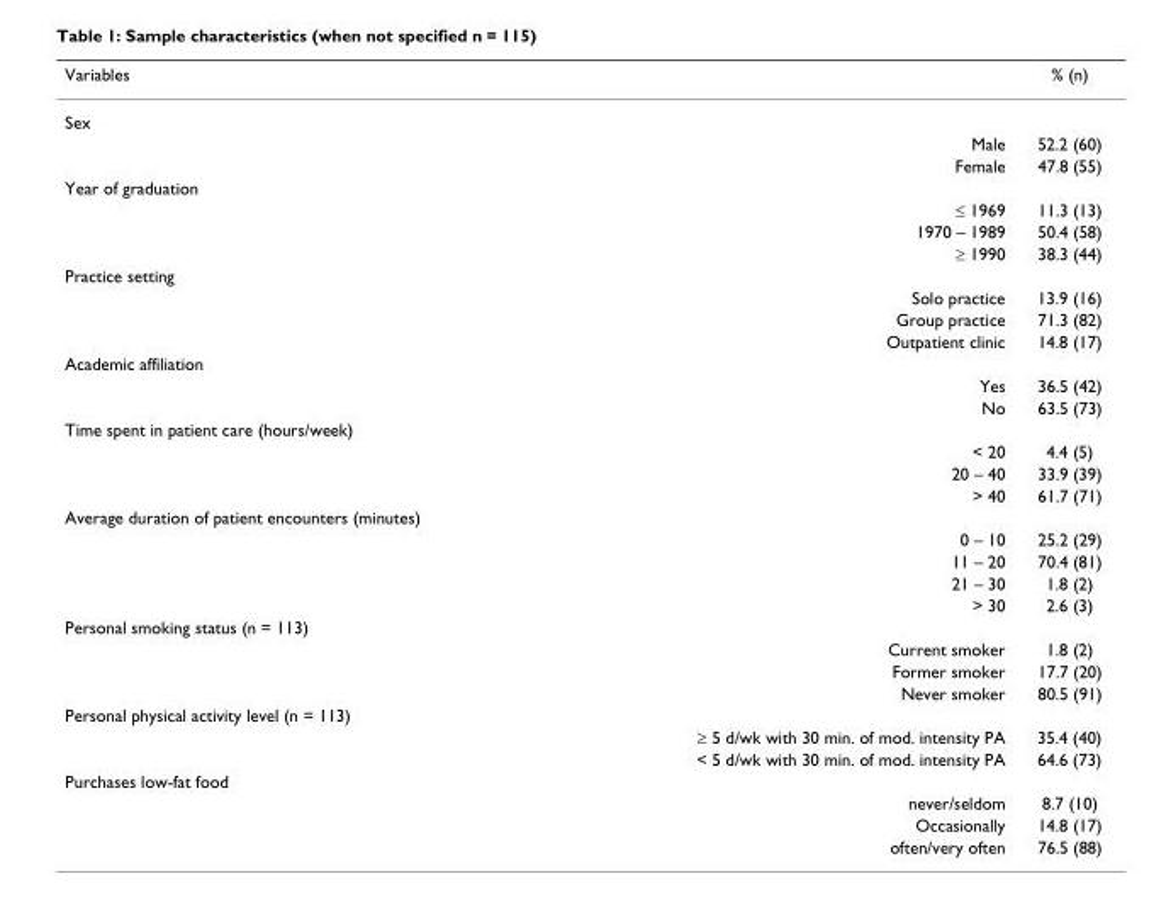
<table><thead><tr><td>Variables</td><td></td><td>% (n)</td></tr></thead><tbody><tr><td colspan="3">Sex</td></tr><tr><td></td><td>Male</td><td>52.2 (60)</td></tr><tr><td></td><td>Female</td><td>47.8 (55)</td></tr><tr><td colspan="3">Year of graduation</td></tr><tr><td></td><td>≤ 1969</td><td>11.3 (13)</td></tr><tr><td></td><td>1970 – 1989</td><td>50.4 (58)</td></tr><tr><td></td><td>≥ 1990</td><td>38.3 (44)</td></tr><tr><td colspan="3">Practice setting</td></tr><tr><td></td><td>Solo practice</td><td>13.9 (16)</td></tr><tr><td></td><td>Group practice</td><td>71.3 (82)</td></tr><tr><td></td><td>Outpatient clinic</td><td>14.8 (17)</td></tr><tr><td colspan="3">Academic affiliation</td></tr><tr><td></td><td>Yes</td><td>36.5 (42)</td></tr><tr><td></td><td>No</td><td>63.5 (73)</td></tr><tr><td colspan="3">Time spent in patient care (hours/week)</td></tr><tr><td></td><td>&lt; 20</td><td>4.4 (5)</td></tr><tr><td></td><td>20 – 40</td><td>33.9 (39)</td></tr><tr><td></td><td>&gt; 40</td><td>61.7 (71)</td></tr><tr><td colspan="3">Average duration of patient encounters (minutes)</td></tr><tr><td></td><td>0 – 10</td><td>25.2 (29)</td></tr><tr><td></td><td>11 – 20</td><td>70.4 (81)</td></tr><tr><td></td><td>21 – 30</td><td>1.8 (2)</td></tr><tr><td></td><td>&gt; 30</td><td>2.6 (3)</td></tr><tr><td colspan="3">Personal smoking status (n = 113)</td></tr><tr><td></td><td>Current smoker</td><td>1.8 (2)</td></tr><tr><td></td><td>Former smoker</td><td>17.7 (20)</td></tr><tr><td></td><td>Never smoker</td><td>80.5 (91)</td></tr><tr><td colspan="3">Personal physical activity level (n = 113)</td></tr><tr><td></td><td>≥ 5 d/wk with 30 min. of mod. intensity PA</td><td>35.4 (40)</td></tr><tr><td></td><td>&lt; 5 d/wk with 30 min. of mod. intensity PA</td><td>64.6 (73)</td></tr><tr><td colspan="3">Purchases low-fat food</td></tr><tr><td></td><td>never/seldom</td><td>8.7 (10)</td></tr><tr><td></td><td>Occasionally</td><td>14.8 (17)</td></tr><tr><td></td><td>often/very often</td><td>76.5 (88)</td></tr></tbody></table>